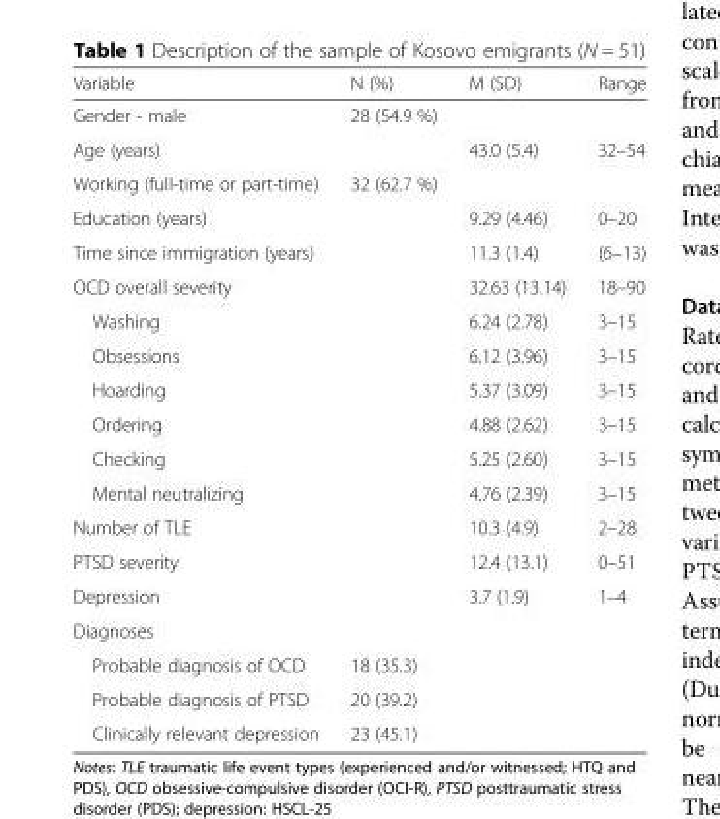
<table><thead><tr><td>Variable</td><td>N (%)</td><td>M (SD)</td><td>Range</td></tr></thead><tbody><tr><td>Gender - male</td><td>28 (54.9 %)</td><td></td><td></td></tr><tr><td>Age (years)</td><td></td><td>43.0 (5.4)</td><td>32–54</td></tr><tr><td>Working (full-time or part-time)</td><td>32 (62.7 %)</td><td></td><td></td></tr><tr><td>Education (years)</td><td></td><td>9.29 (4.46)</td><td>0–20</td></tr><tr><td>Time since immigration (years)</td><td></td><td>11.3 (1.4)</td><td>(6–13)</td></tr><tr><td>OCD overall severity</td><td></td><td>32.63 (13.14)</td><td>18–90</td></tr><tr><td>Washing</td><td></td><td>6.24 (2.78)</td><td>3–15</td></tr><tr><td>Obsessions</td><td></td><td>6.12 (3.96)</td><td>3–15</td></tr><tr><td>Hoarding</td><td></td><td>5.37 (3.09)</td><td>3–15</td></tr><tr><td>Ordering</td><td></td><td>4.88 (2.62)</td><td>3–15</td></tr><tr><td>Checking</td><td></td><td>5.25 (2.60)</td><td>3–15</td></tr><tr><td>Mental neutralizing</td><td></td><td>4.76 (2.39)</td><td>3–15</td></tr><tr><td>Number of TLE</td><td></td><td>10.3 (4.9)</td><td>2–28</td></tr><tr><td>PTSD severity</td><td></td><td>12.4 (13.1)</td><td>0–51</td></tr><tr><td>Depression</td><td></td><td>3.7 (1.9)</td><td>1–4</td></tr><tr><td colspan="4">Diagnoses</td></tr><tr><td>Probable diagnosis of OCD</td><td>18 (35.3)</td><td></td><td></td></tr><tr><td>Probable diagnosis of PTSD</td><td>20 (39.2)</td><td></td><td></td></tr><tr><td>Clinically relevant depression</td><td>23 (45.1)</td><td></td><td></td></tr></tbody></table>